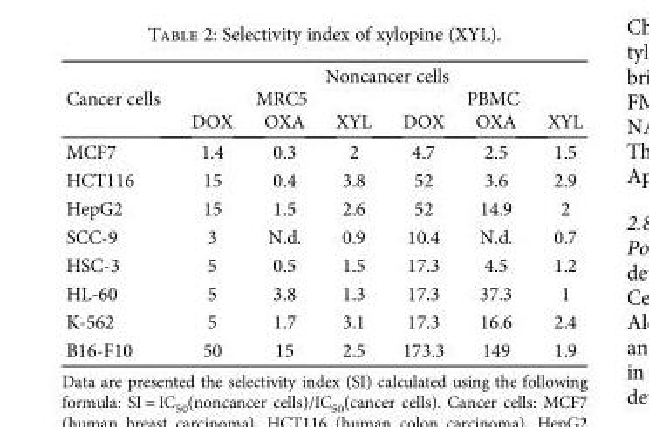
<table><thead><tr><td rowspan="3">Cancer cells</td><td colspan="6">Noncancer cells</td></tr><tr><td colspan="3">MRC5</td><td colspan="3">PBMC</td></tr><tr><td>DOX</td><td>OXA</td><td>XYL</td><td>DOX</td><td>OXA</td><td>XYL</td></tr></thead><tbody><tr><td>MCF7</td><td>1.4</td><td>0.3</td><td>2</td><td>4.7</td><td>2.5</td><td>1.5</td></tr><tr><td>HCT116</td><td>15</td><td>0.4</td><td>3.8</td><td>52</td><td>3.6</td><td>2.9</td></tr><tr><td>HepG2</td><td>15</td><td>1.5</td><td>2.6</td><td>52</td><td>14.9</td><td>2</td></tr><tr><td>SCC-9</td><td>3</td><td>N.d.</td><td>0.9</td><td>10.4</td><td>N.d.</td><td>0.7</td></tr><tr><td>HSC-3</td><td>5</td><td>0.5</td><td>1.5</td><td>17.3</td><td>4.5</td><td>1.2</td></tr><tr><td>HL-60</td><td>5</td><td>3.8</td><td>1.3</td><td>17.3</td><td>37.3</td><td>1</td></tr><tr><td>K-562</td><td>5</td><td>1.7</td><td>3.1</td><td>17.3</td><td>16.6</td><td>2.4</td></tr><tr><td>B16-F10</td><td>50</td><td>15</td><td>2.5</td><td>173.3</td><td>149</td><td>1.9</td></tr></tbody></table>